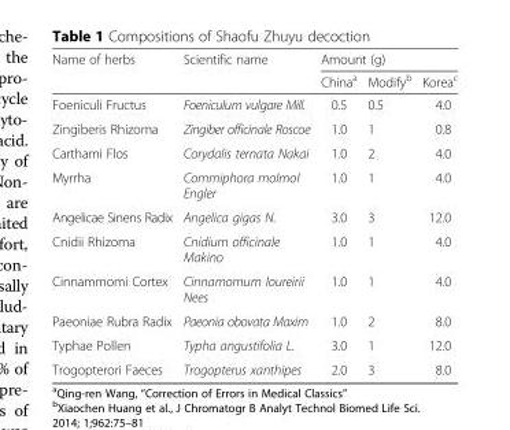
<table><thead><tr><td rowspan="2">Name of herbs</td><td rowspan="2">Scientific name</td><td colspan="3">Amount (g)</td></tr><tr><td>China<sup>a</sup></td><td>Modify<sup>b</sup></td><td>Korea<sup>c</sup></td></tr></thead><tbody><tr><td>Foeniculi Fructus</td><td>Foeniculum vulgare Mill.</td><td>0.5</td><td>0.5</td><td>4.0</td></tr><tr><td>Zingiberis Rhizoma</td><td>Zingiber officinale Roscoe</td><td>1.0</td><td>1</td><td>0.8</td></tr><tr><td>Carthami Flos</td><td>Corydalis ternata Nakai</td><td>1.0</td><td>2</td><td>4.0</td></tr><tr><td>Myrrha</td><td>Commiphora molmol Engler</td><td>1.0</td><td>1</td><td>4.0</td></tr><tr><td>Angelicae Sinens Radix</td><td>Angelica gigas N.</td><td>3.0</td><td>3</td><td>12.0</td></tr><tr><td>Cnidii Rhizoma</td><td>Cnidium officinale Makino</td><td>1.0</td><td>1</td><td>4.0</td></tr><tr><td>Cinnammomi Cortex</td><td>Cinnamomum loureirii Nees</td><td>1.0</td><td>1</td><td>4.0</td></tr><tr><td>Paeoniae Rubra Radix</td><td>Paeonia obovata Maxim</td><td>1.0</td><td>2</td><td>8.0</td></tr><tr><td>Typhae Pollen</td><td>Typha angustifolia L.</td><td>3.0</td><td>1</td><td>12.0</td></tr><tr><td>Trogopterori Faeces</td><td>Trogopterus xanthipes</td><td>2.0</td><td>3</td><td>8.0</td></tr></tbody></table>